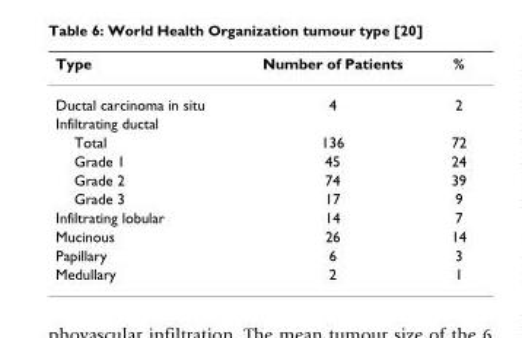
<table><thead><tr><td>Type</td><td>Number of Patients</td><td>%</td></tr></thead><tbody><tr><td>Ductal carcinoma in situ</td><td>4</td><td>2</td></tr><tr><td colspan="3">Infiltrating ductal</td></tr><tr><td>Total</td><td>136</td><td>72</td></tr><tr><td>Grade 1</td><td>45</td><td>24</td></tr><tr><td>Grade 2</td><td>74</td><td>39</td></tr><tr><td>Grade 3</td><td>17</td><td>9</td></tr><tr><td>Infiltrating lobular</td><td>14</td><td>7</td></tr><tr><td>Mucinous</td><td>26</td><td>14</td></tr><tr><td>Papillary</td><td>6</td><td>3</td></tr><tr><td>Medullary</td><td>2</td><td>1</td></tr></tbody></table>